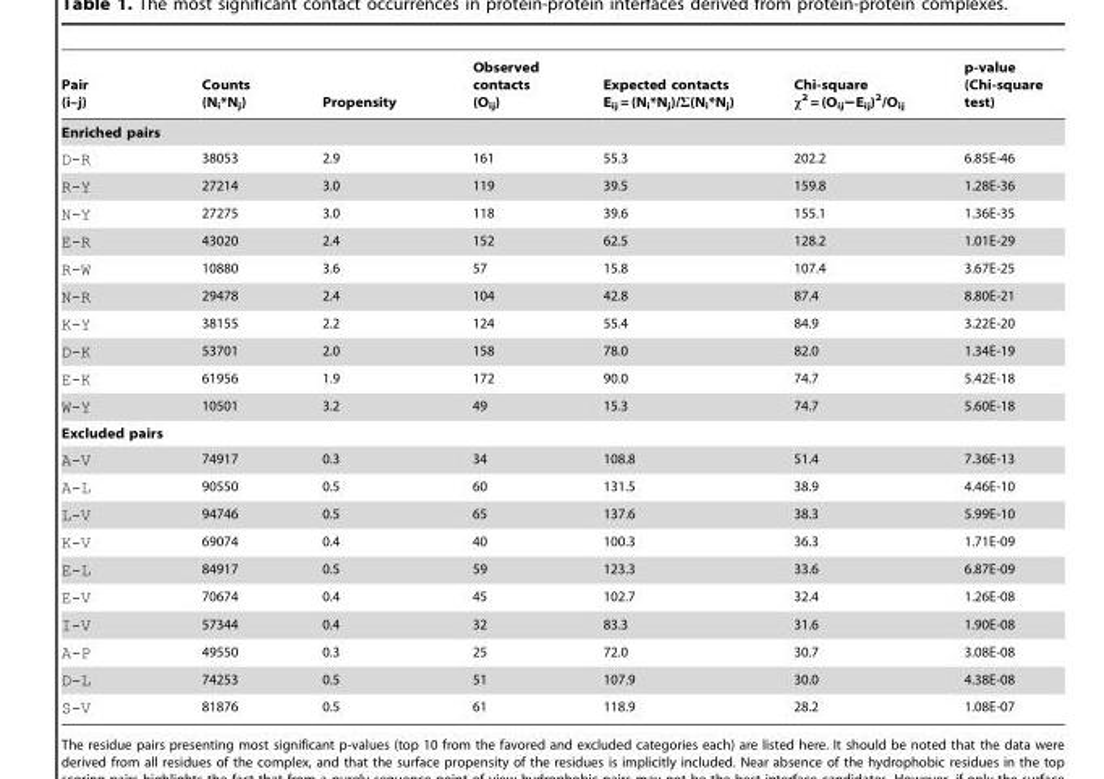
<table><thead><tr><td>Pair (i–j)</td><td>Counts (N<sub>i</sub>*N<sub>j</sub>)</td><td>Propensity</td><td>Observed contacts (O<sub>ij</sub>)</td><td>Expected contacts E<sub>ij</sub> = (N<sub>i</sub>*N<sub>j</sub>)/Σ(N<sub>i</sub>*N<sub>j</sub>)</td><td>Chi-square χ<sup>2</sup> = (O<sub>ij</sub>−E<sub>ij</sub>)<sup>2</sup>/O<sub>ij</sub></td><td>p-value (Chi-square test)</td></tr></thead><tbody><tr><td colspan="7">Enriched pairs</td></tr><tr><td>D-R</td><td>38053</td><td>2.9</td><td>161</td><td>55.3</td><td>202.2</td><td>6.85E-46</td></tr><tr><td>R-Y</td><td>27214</td><td>3.0</td><td>119</td><td>39.5</td><td>159.8</td><td>1.28E-36</td></tr><tr><td>N-Y</td><td>27275</td><td>3.0</td><td>118</td><td>39.6</td><td>155.1</td><td>1.36E-35</td></tr><tr><td>E-R</td><td>43020</td><td>2.4</td><td>152</td><td>62.5</td><td>128.2</td><td>1.01E-29</td></tr><tr><td>R-W</td><td>10880</td><td>3.6</td><td>57</td><td>15.8</td><td>107.4</td><td>3.67E-25</td></tr><tr><td>N-R</td><td>29478</td><td>2.4</td><td>104</td><td>42.8</td><td>87.4</td><td>8.80E-21</td></tr><tr><td>K-Y</td><td>38155</td><td>2.2</td><td>124</td><td>55.4</td><td>84.9</td><td>3.22E-20</td></tr><tr><td>D-K</td><td>53701</td><td>2.0</td><td>158</td><td>78.0</td><td>82.0</td><td>1.34E-19</td></tr><tr><td>E-K</td><td>61956</td><td>1.9</td><td>172</td><td>90.0</td><td>74.7</td><td>5.42E-18</td></tr><tr><td>W-Y</td><td>10501</td><td>3.2</td><td>49</td><td>15.3</td><td>74.7</td><td>5.60E-18</td></tr><tr><td colspan="7">Excluded pairs</td></tr><tr><td>A-V</td><td>74917</td><td>0.3</td><td>34</td><td>108.8</td><td>51.4</td><td>7.36E-13</td></tr><tr><td>A-L</td><td>90550</td><td>0.5</td><td>60</td><td>131.5</td><td>38.9</td><td>4.46E-10</td></tr><tr><td>L-V</td><td>94746</td><td>0.5</td><td>65</td><td>137.6</td><td>38.3</td><td>5.99E-10</td></tr><tr><td>K-V</td><td>69074</td><td>0.4</td><td>40</td><td>100.3</td><td>36.3</td><td>1.71E-09</td></tr><tr><td>E-L</td><td>84917</td><td>0.5</td><td>59</td><td>123.3</td><td>33.6</td><td>6.87E-09</td></tr><tr><td>E-V</td><td>70674</td><td>0.4</td><td>45</td><td>102.7</td><td>32.4</td><td>1.26E-08</td></tr><tr><td>I-V</td><td>57344</td><td>0.4</td><td>32</td><td>83.3</td><td>31.6</td><td>1.90E-08</td></tr><tr><td>A-P</td><td>49550</td><td>0.3</td><td>25</td><td>72.0</td><td>30.7</td><td>3.08E-08</td></tr><tr><td>D-L</td><td>74253</td><td>0.5</td><td>51</td><td>107.9</td><td>30.0</td><td>4.38E-08</td></tr><tr><td>S-V</td><td>81876</td><td>0.5</td><td>61</td><td>118.9</td><td>28.2</td><td>1.08E-07</td></tr></tbody></table>